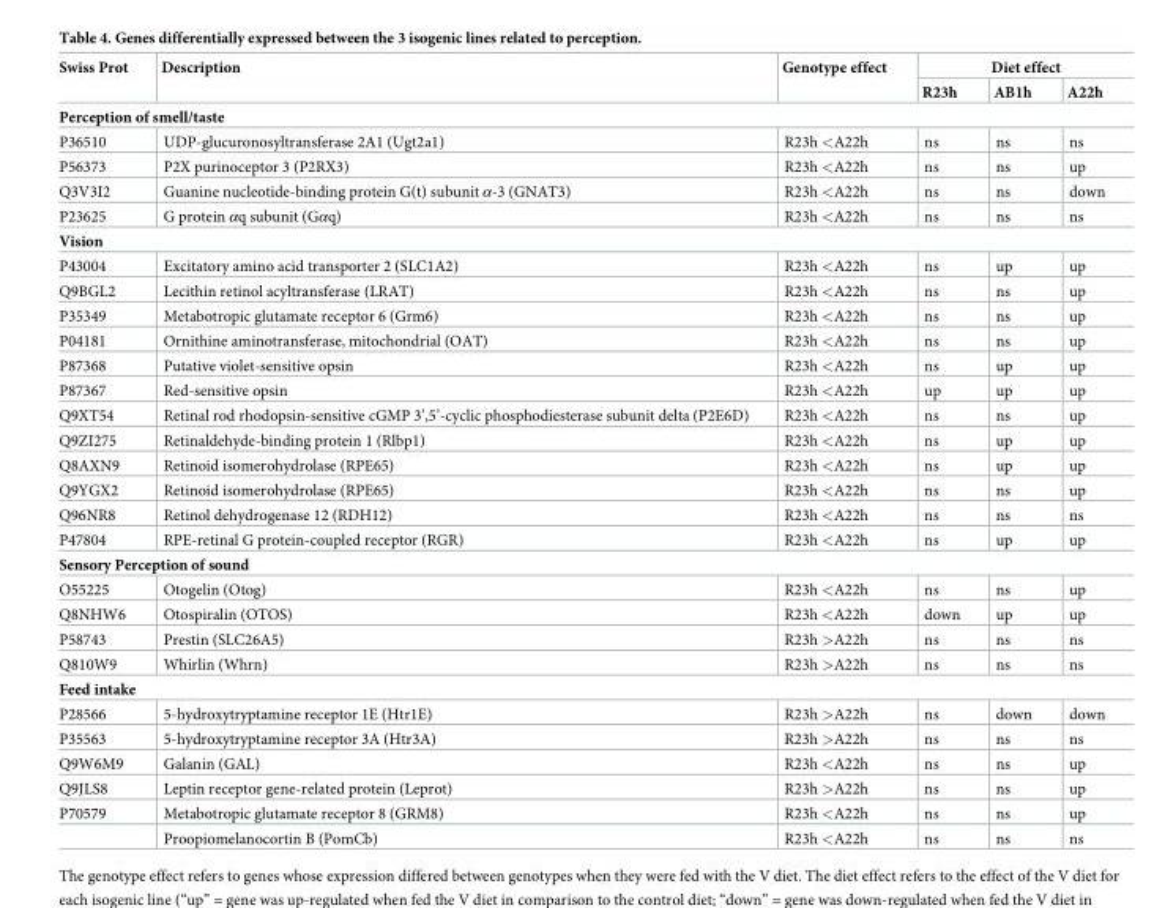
<table><thead><tr><td rowspan="2">Swiss Prot</td><td rowspan="2">Description</td><td rowspan="2">Genotype effect</td><td colspan="3">Diet effect</td></tr><tr><td>R23h</td><td>AB1h</td><td>A22h</td></tr></thead><tbody><tr><td colspan="6">Perception of smell/taste</td></tr><tr><td>P36510</td><td>UDP-glucuronosyltransferase 2A1 (Ugt2a1)</td><td>R23h &lt;A22h</td><td>ns</td><td>ns</td><td>ns</td></tr><tr><td>P56373</td><td>P2X purinoceptor 3 (P2RX3)</td><td>R23h &lt;A22h</td><td>ns</td><td>ns</td><td>up</td></tr><tr><td>Q3V3I2</td><td>Guanine nucleotide-binding protein G(t) subunit α-3 (GNAT3)</td><td>R23h &lt;A22h</td><td>ns</td><td>ns</td><td>down</td></tr><tr><td>P23625</td><td>G protein αq subunit (Gαq)</td><td>R23h &lt;A22h</td><td>ns</td><td>ns</td><td>ns</td></tr><tr><td colspan="6">Vision</td></tr><tr><td>P43004</td><td>Excitatory amino acid transporter 2 (SLC1A2)</td><td>R23h &lt;A22h</td><td>ns</td><td>up</td><td>up</td></tr><tr><td>Q9BGL2</td><td>Lecithin retinol acyltransferase (LRAT)</td><td>R23h &lt;A22h</td><td>ns</td><td>ns</td><td>up</td></tr><tr><td>P35349</td><td>Metabotropic glutamate receptor 6 (Grm6)</td><td>R23h &lt;A22h</td><td>ns</td><td>ns</td><td>up</td></tr><tr><td>P04181</td><td>Ornithine aminotransferase, mitochondrial (OAT)</td><td>R23h &lt;A22h</td><td>ns</td><td>ns</td><td>up</td></tr><tr><td>P87368</td><td>Putative violet-sensitive opsin</td><td>R23h &lt;A22h</td><td>ns</td><td>up</td><td>up</td></tr><tr><td>P87367</td><td>Red-sensitive opsin</td><td>R23h &lt;A22h</td><td>up</td><td>up</td><td>up</td></tr><tr><td>Q9XT54</td><td>Retinal rod rhodopsin-sensitive cGMP 3’,5’-cyclic phosphodiesterase subunit delta (P2E6D)</td><td>R23h &lt;A22h</td><td>ns</td><td>ns</td><td>up</td></tr><tr><td>Q9ZI275</td><td>Retinaldehyde-binding protein 1 (Rlbp1)</td><td>R23h &lt;A22h</td><td>ns</td><td>up</td><td>up</td></tr><tr><td>Q8AXN9</td><td>Retinoid isomerohydrolase (RPE65)</td><td>R23h &lt;A22h</td><td>ns</td><td>up</td><td>up</td></tr><tr><td>Q9YGX2</td><td>Retinoid isomerohydrolase (RPE65)</td><td>R23h &lt;A22h</td><td>ns</td><td>ns</td><td>up</td></tr><tr><td>Q96NR8</td><td>Retinol dehydrogenase 12 (RDH12)</td><td>R23h &lt;A22h</td><td>ns</td><td>ns</td><td>ns</td></tr><tr><td>P47804</td><td>RPE-retinal G protein-coupled receptor (RGR)</td><td>R23h &lt;A22h</td><td>ns</td><td>up</td><td>up</td></tr><tr><td colspan="6">Sensory Perception of sound</td></tr><tr><td>O55225</td><td>Otogelin (Otog)</td><td>R23h &lt;A22h</td><td>ns</td><td>ns</td><td>up</td></tr><tr><td>Q8NHW6</td><td>Otospiralin (OTOS)</td><td>R23h &lt;A22h</td><td>down</td><td>up</td><td>up</td></tr><tr><td>P58743</td><td>Prestin (SLC26A5)</td><td>R23h &gt;A22h</td><td>ns</td><td>ns</td><td>ns</td></tr><tr><td>Q810W9</td><td>Whirlin (Whrn)</td><td>R23h &gt;A22h</td><td>ns</td><td>ns</td><td>ns</td></tr><tr><td colspan="6">Feed intake</td></tr><tr><td>P28566</td><td>5-hydroxytryptamine receptor 1E (Htr1E)</td><td>R23h &gt;A22h</td><td>ns</td><td>down</td><td>down</td></tr><tr><td>P35563</td><td>5-hydroxytryptamine receptor 3A (Htr3A)</td><td>R23h &gt;A22h</td><td>ns</td><td>ns</td><td>ns</td></tr><tr><td>Q9W6M9</td><td>Galanin (GAL)</td><td>R23h &lt;A22h</td><td>ns</td><td>ns</td><td>up</td></tr><tr><td>Q9JLS8</td><td>Leptin receptor gene-related protein (Leprot)</td><td>R23h &gt;A22h</td><td>ns</td><td>ns</td><td>up</td></tr><tr><td rowspan="2">P70579</td><td>Metabotropic glutamate receptor 8 (GRM8)</td><td>R23h &lt;A22h</td><td>ns</td><td>ns</td><td>up</td></tr><tr><td>Proopiomelanocortin B (PomCb)</td><td>R23h &lt;A22h</td><td>ns</td><td>ns</td><td>ns</td></tr></tbody></table>